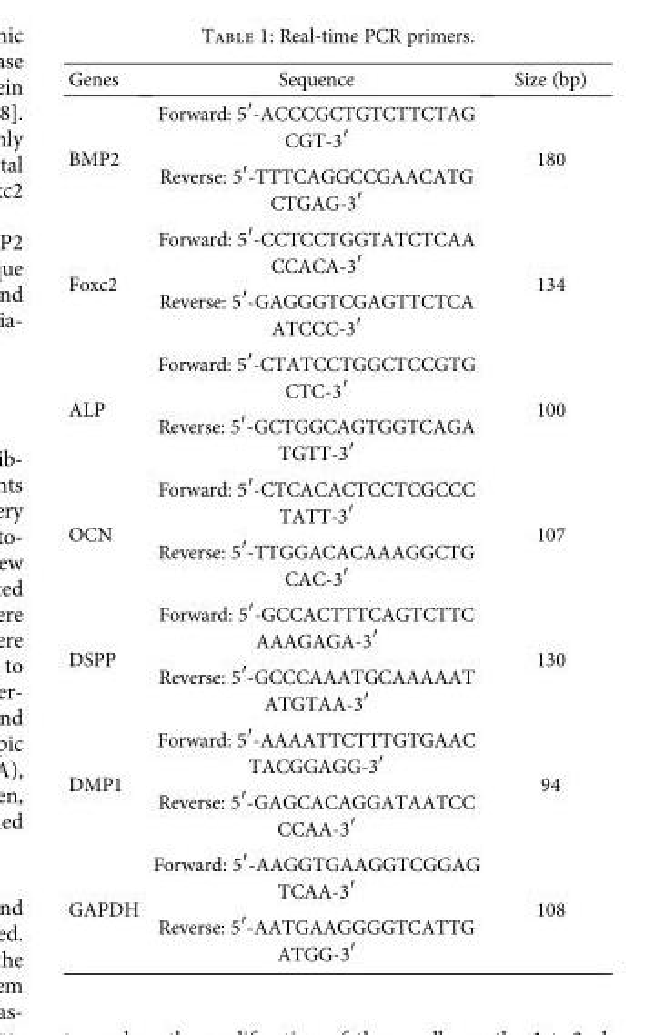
<table><thead><tr><td>Genes</td><td>Sequence</td><td>Size (bp)</td></tr></thead><tbody><tr><td rowspan="2">BMP2</td><td>Forward: 5′-ACCCGCTGTCTTCTAG CGT-3′</td><td rowspan="2">180</td></tr><tr><td>Reverse: 5′-TTTCAGGCCGAACATG CTGAG-3′</td></tr><tr><td rowspan="2">Foxc2</td><td>Forward: 5′-CCTCCTGGTATCTCAA CCACA-3′</td><td rowspan="2">134</td></tr><tr><td>Reverse: 5′-GAGGGTCGAGTTCTCA ATCCC-3′</td></tr><tr><td rowspan="2">ALP</td><td>Forward: 5′-CTATCCTGGCTCCGTG CTC-3′</td><td rowspan="2">100</td></tr><tr><td>Reverse: 5′-GCTGGCAGTGGTCAGA TGTT-3′</td></tr><tr><td rowspan="2">OCN</td><td>Forward: 5′-CTCACACTCCTCGCCC TATT-3′</td><td rowspan="2">107</td></tr><tr><td>Reverse: 5′-TTGGACACAAAGGCTG CAC-3′</td></tr><tr><td rowspan="2">DSPP</td><td>Forward: 5′-GCCACTTTCAGTCTTC AAAGAGA-3′</td><td rowspan="2">130</td></tr><tr><td>Reverse: 5′-GCCCAAATGCAAAAAT ATGTAA-3′</td></tr><tr><td rowspan="2">DMP1</td><td>Forward: 5′-AAAATTCTTTGTGAAC TACGGAGG-3′</td><td rowspan="2">94</td></tr><tr><td>Reverse: 5′-GAGCACAGGATAATCC CCAA-3′</td></tr><tr><td rowspan="2">GAPDH</td><td>Forward: 5′-AAGGTGAAGGTCGGAG TCAA-3′</td><td rowspan="2">108</td></tr><tr><td>Reverse: 5′-AATGAAGGGGTCATTG ATGG-3′</td></tr></tbody></table>